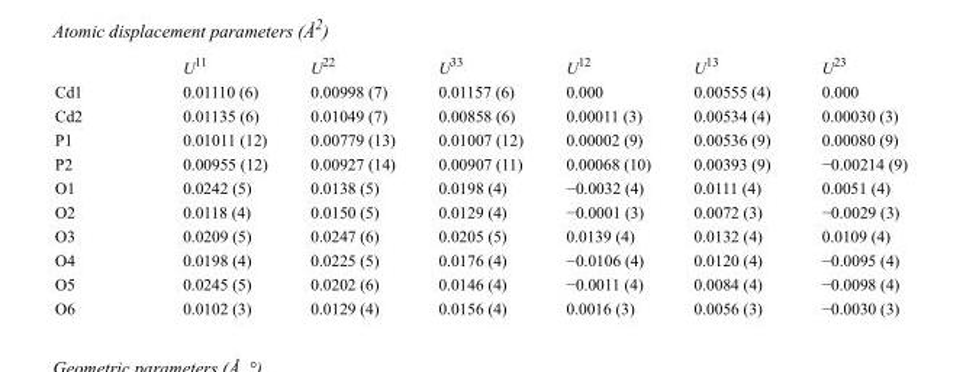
<table><thead><tr><td></td><td>U<sup>11</sup></td><td>U<sup>22</sup></td><td>U<sup>33</sup></td><td>U<sup>12</sup></td><td>U<sup>13</sup></td><td>U<sup>23</sup></td></tr></thead><tbody><tr><td>Cd1</td><td>0.01110 (6)</td><td>0.00998 (7)</td><td>0.01157 (6)</td><td>0.000</td><td>0.00555 (4)</td><td>0.000</td></tr><tr><td>Cd2</td><td>0.01135 (6)</td><td>0.01049 (7)</td><td>0.00858 (6)</td><td>0.00011 (3)</td><td>0.00534 (4)</td><td>0.00030 (3)</td></tr><tr><td>P1</td><td>0.01011 (12)</td><td>0.00779 (13)</td><td>0.01007 (12)</td><td>0.00002 (9)</td><td>0.00536 (9)</td><td>0.00080 (9)</td></tr><tr><td>P2</td><td>0.00955 (12)</td><td>0.00927 (14)</td><td>0.00907 (11)</td><td>0.00068 (10)</td><td>0.00393 (9)</td><td>−0.00214 (9)</td></tr><tr><td>O1</td><td>0.0242 (5)</td><td>0.0138 (5)</td><td>0.0198 (4)</td><td>−0.0032 (4)</td><td>0.0111 (4)</td><td>0.0051 (4)</td></tr><tr><td>O2</td><td>0.0118 (4)</td><td>0.0150 (5)</td><td>0.0129 (4)</td><td>−0.0001 (3)</td><td>0.0072 (3)</td><td>−0.0029 (3)</td></tr><tr><td>O3</td><td>0.0209 (5)</td><td>0.0247 (6)</td><td>0.0205 (5)</td><td>0.0139 (4)</td><td>0.0132 (4)</td><td>0.0109 (4)</td></tr><tr><td>O4</td><td>0.0198 (4)</td><td>0.0225 (5)</td><td>0.0176 (4)</td><td>−0.0106 (4)</td><td>0.0120 (4)</td><td>−0.0095 (4)</td></tr><tr><td>O5</td><td>0.0245 (5)</td><td>0.0202 (6)</td><td>0.0146 (4)</td><td>−0.0011 (4)</td><td>0.0084 (4)</td><td>−0.0098 (4)</td></tr><tr><td>O6</td><td>0.0102 (3)</td><td>0.0129 (4)</td><td>0.0156 (4)</td><td>0.0016 (3)</td><td>0.0056 (3)</td><td>−0.0030 (3)</td></tr></tbody></table>